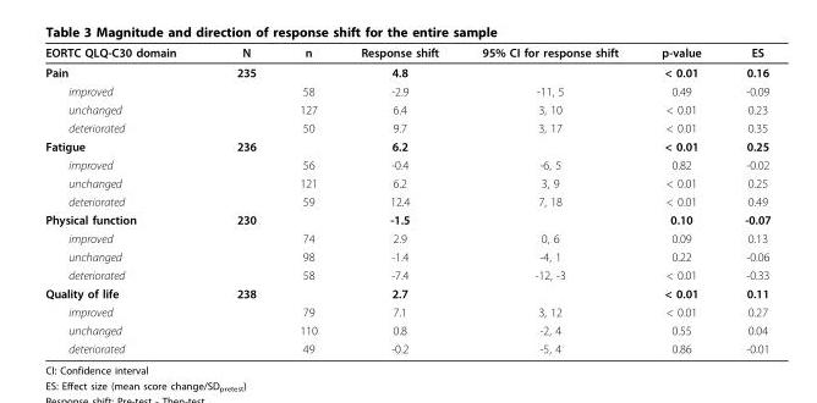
<table><thead><tr><td>EORTC QLQ-C30 domain</td><td>N</td><td>n</td><td>Response shift</td><td>95% CI for response shift</td><td>p-value</td><td>ES</td></tr></thead><tbody><tr><td>Pain</td><td>235</td><td></td><td>4.8</td><td></td><td>&lt; 0.01</td><td>0.16</td></tr><tr><td>improved</td><td></td><td>58</td><td>-2.9</td><td>-11, 5</td><td>0.49</td><td>-0.09</td></tr><tr><td>unchanged</td><td></td><td>127</td><td>6.4</td><td>3, 10</td><td>&lt; 0.01</td><td>0.23</td></tr><tr><td>deteriorated</td><td></td><td>50</td><td>9.7</td><td>3, 17</td><td>&lt; 0.01</td><td>0.35</td></tr><tr><td>Fatigue</td><td>236</td><td></td><td>6.2</td><td></td><td>&lt; 0.01</td><td>0.25</td></tr><tr><td>improved</td><td></td><td>56</td><td>-0.4</td><td>-6, 5</td><td>0.82</td><td>-0.02</td></tr><tr><td>unchanged</td><td></td><td>121</td><td>6.2</td><td>3, 9</td><td>&lt; 0.01</td><td>0.25</td></tr><tr><td>deteriorated</td><td></td><td>59</td><td>12.4</td><td>7, 18</td><td>&lt; 0.01</td><td>0.49</td></tr><tr><td>Physical function</td><td>230</td><td></td><td>-1.5</td><td></td><td>0.10</td><td>-0.07</td></tr><tr><td>improved</td><td></td><td>74</td><td>2.9</td><td>0, 6</td><td>0.09</td><td>0.13</td></tr><tr><td>unchanged</td><td></td><td>98</td><td>-1.4</td><td>-4, 1</td><td>0.22</td><td>-0.06</td></tr><tr><td>deteriorated</td><td></td><td>58</td><td>-7.4</td><td>-12, -3</td><td>&lt; 0.01</td><td>-0.33</td></tr><tr><td>Quality of life</td><td>238</td><td></td><td>2.7</td><td></td><td>&lt; 0.01</td><td>0.11</td></tr><tr><td>improved</td><td></td><td>79</td><td>7.1</td><td>3, 12</td><td>&lt; 0.01</td><td>0.27</td></tr><tr><td>unchanged</td><td></td><td>110</td><td>0.8</td><td>-2, 4</td><td>0.55</td><td>0.04</td></tr><tr><td>deteriorated</td><td></td><td>49</td><td>-0.2</td><td>-5, 4</td><td>0.86</td><td>-0.01</td></tr></tbody></table>